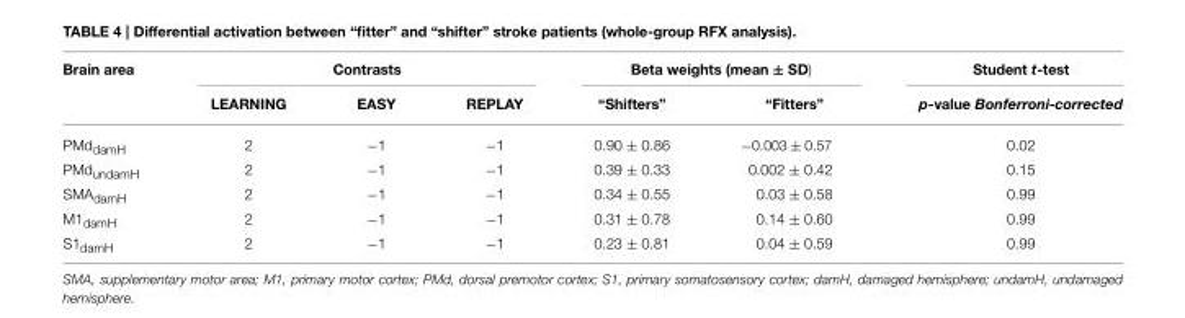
<table><thead><tr><td rowspan="2">Brain area</td><td colspan="3">Contrasts</td><td colspan="2">Beta weights (mean ± SD)</td><td rowspan="2">Student t-test p-value Bonferroni-corrected</td></tr><tr><td>LEARNING</td><td>EASY</td><td>REPLAY</td><td>“Shifters”</td><td>“Fitters”</td></tr></thead><tbody><tr><td>PMd<sub>damH</sub></td><td>2</td><td>−1</td><td>−1</td><td>0.90 ± 0.86</td><td>−0.003 ± 0.57</td><td>0.02</td></tr><tr><td>PMd<sub>undamH</sub></td><td>2</td><td>−1</td><td>−1</td><td>0.39 ± 0.33</td><td>0.002 ± 0.42</td><td>0.15</td></tr><tr><td>SMA<sub>damH</sub></td><td>2</td><td>−1</td><td>−1</td><td>0.34 ± 0.55</td><td>0.03 ± 0.58</td><td>0.99</td></tr><tr><td>M1<sub>damH</sub></td><td>2</td><td>−1</td><td>−1</td><td>0.31 ± 0.78</td><td>0.14 ± 0.60</td><td>0.99</td></tr><tr><td>S1<sub>damH</sub></td><td>2</td><td>−1</td><td>−1</td><td>0.23 ± 0.81</td><td>0.04 ± 0.59</td><td>0.99</td></tr></tbody></table>